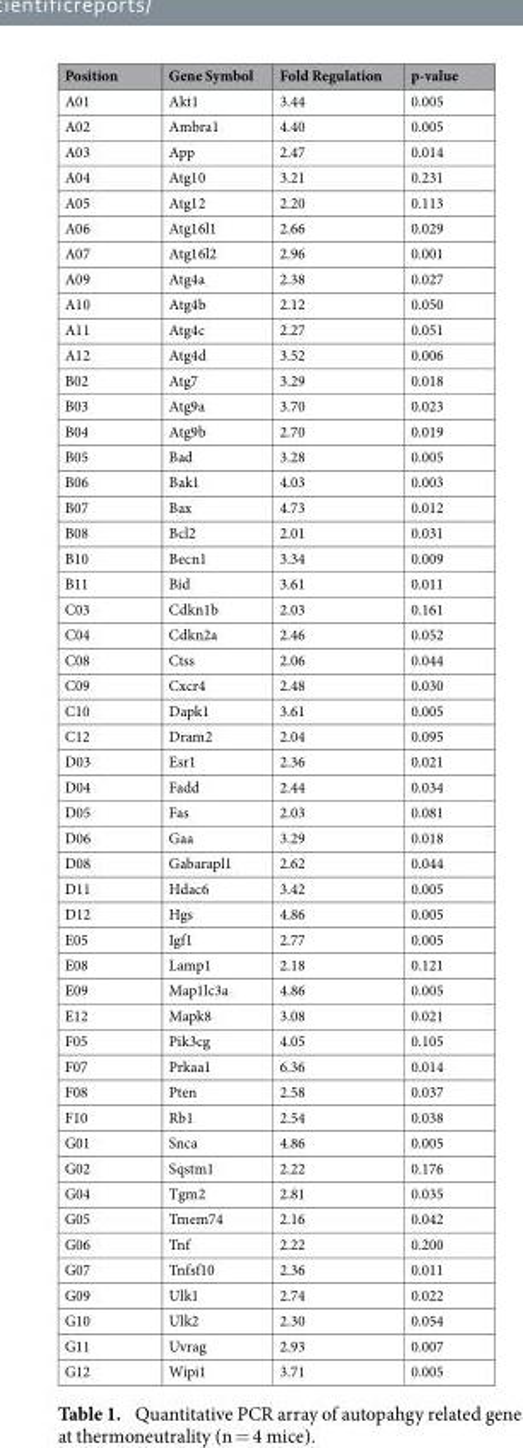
<table><thead><tr><td>Position</td><td>Gene Symbol</td><td>Fold Regulation</td><td>p-value</td></tr></thead><tbody><tr><td>A01</td><td>Akt1</td><td>3.44</td><td>0.005</td></tr><tr><td>A02</td><td>Ambra1</td><td>4.40</td><td>0.005</td></tr><tr><td>A03</td><td>App</td><td>2.47</td><td>0.014</td></tr><tr><td>A04</td><td>Atg10</td><td>3.21</td><td>0.231</td></tr><tr><td>A05</td><td>Atg12</td><td>2.20</td><td>0.113</td></tr><tr><td>A06</td><td>Atg16l1</td><td>2.66</td><td>0.029</td></tr><tr><td>A07</td><td>Atg16l2</td><td>2.96</td><td>0.001</td></tr><tr><td>A09</td><td>Atg4a</td><td>2.38</td><td>0.027</td></tr><tr><td>A10</td><td>Atg4b</td><td>2.12</td><td>0.050</td></tr><tr><td>A11</td><td>Atg4c</td><td>2.27</td><td>0.051</td></tr><tr><td>A12</td><td>Atg4d</td><td>3.52</td><td>0.006</td></tr><tr><td>B02</td><td>Atg7</td><td>3.29</td><td>0.018</td></tr><tr><td>B03</td><td>Atg9a</td><td>3.70</td><td>0.023</td></tr><tr><td>B04</td><td>Atg9b</td><td>2.70</td><td>0.019</td></tr><tr><td>B05</td><td>Bad</td><td>3.28</td><td>0.005</td></tr><tr><td>B06</td><td>Bak1</td><td>4.03</td><td>0.003</td></tr><tr><td>B07</td><td>Bax</td><td>4.73</td><td>0.012</td></tr><tr><td>B08</td><td>Bcl2</td><td>2.01</td><td>0.031</td></tr><tr><td>B10</td><td>Becn1</td><td>3.34</td><td>0.009</td></tr><tr><td>B11</td><td>Bid</td><td>3.61</td><td>0.011</td></tr><tr><td>C03</td><td>Cdkn1b</td><td>2.03</td><td>0.161</td></tr><tr><td>C04</td><td>Cdkn2a</td><td>2.46</td><td>0.052</td></tr><tr><td>C08</td><td>Ctss</td><td>2.06</td><td>0.044</td></tr><tr><td>C09</td><td>Cxcr4</td><td>2.48</td><td>0.030</td></tr><tr><td>C10</td><td>Dapk1</td><td>3.61</td><td>0.005</td></tr><tr><td>C12</td><td>Dram2</td><td>2.04</td><td>0.095</td></tr><tr><td>D03</td><td>Esr1</td><td>2.36</td><td>0.021</td></tr><tr><td>D04</td><td>Fadd</td><td>2.44</td><td>0.034</td></tr><tr><td>D05</td><td>Fas</td><td>2.03</td><td>0.081</td></tr><tr><td>D06</td><td>Gaa</td><td>3.29</td><td>0.018</td></tr><tr><td>D08</td><td>Gabarapl1</td><td>2.62</td><td>0.044</td></tr><tr><td>D11</td><td>Hdac6</td><td>3.42</td><td>0.005</td></tr><tr><td>D12</td><td>Hgs</td><td>4.86</td><td>0.005</td></tr><tr><td>E05</td><td>Igf1</td><td>2.77</td><td>0.005</td></tr><tr><td>E08</td><td>Lamp1</td><td>2.18</td><td>0.121</td></tr><tr><td>E09</td><td>Map1lc3a</td><td>4.86</td><td>0.005</td></tr><tr><td>E12</td><td>Mapk8</td><td>3.08</td><td>0.021</td></tr><tr><td>F05</td><td>Pik3cg</td><td>4.05</td><td>0.105</td></tr><tr><td>F07</td><td>Prkaa1</td><td>6.36</td><td>0.014</td></tr><tr><td>F08</td><td>Pten</td><td>2.58</td><td>0.037</td></tr><tr><td>F10</td><td>Rb1</td><td>2.54</td><td>0.038</td></tr><tr><td>G01</td><td>Snca</td><td>4.86</td><td>0.005</td></tr><tr><td>G02</td><td>Sqstm1</td><td>2.22</td><td>0.176</td></tr><tr><td>G04</td><td>Tgm2</td><td>2.81</td><td>0.035</td></tr><tr><td>G05</td><td>Tmem74</td><td>2.16</td><td>0.042</td></tr><tr><td>G06</td><td>Tnf</td><td>2.22</td><td>0.200</td></tr><tr><td>G07</td><td>Tnfsf10</td><td>2.36</td><td>0.011</td></tr><tr><td>G09</td><td>Ulk1</td><td>2.74</td><td>0.022</td></tr><tr><td>G10</td><td>Ulk2</td><td>2.30</td><td>0.054</td></tr><tr><td>G11</td><td>Uvrag</td><td>2.93</td><td>0.007</td></tr><tr><td>G12</td><td>Wipi1</td><td>3.71</td><td>0.005</td></tr></tbody></table>